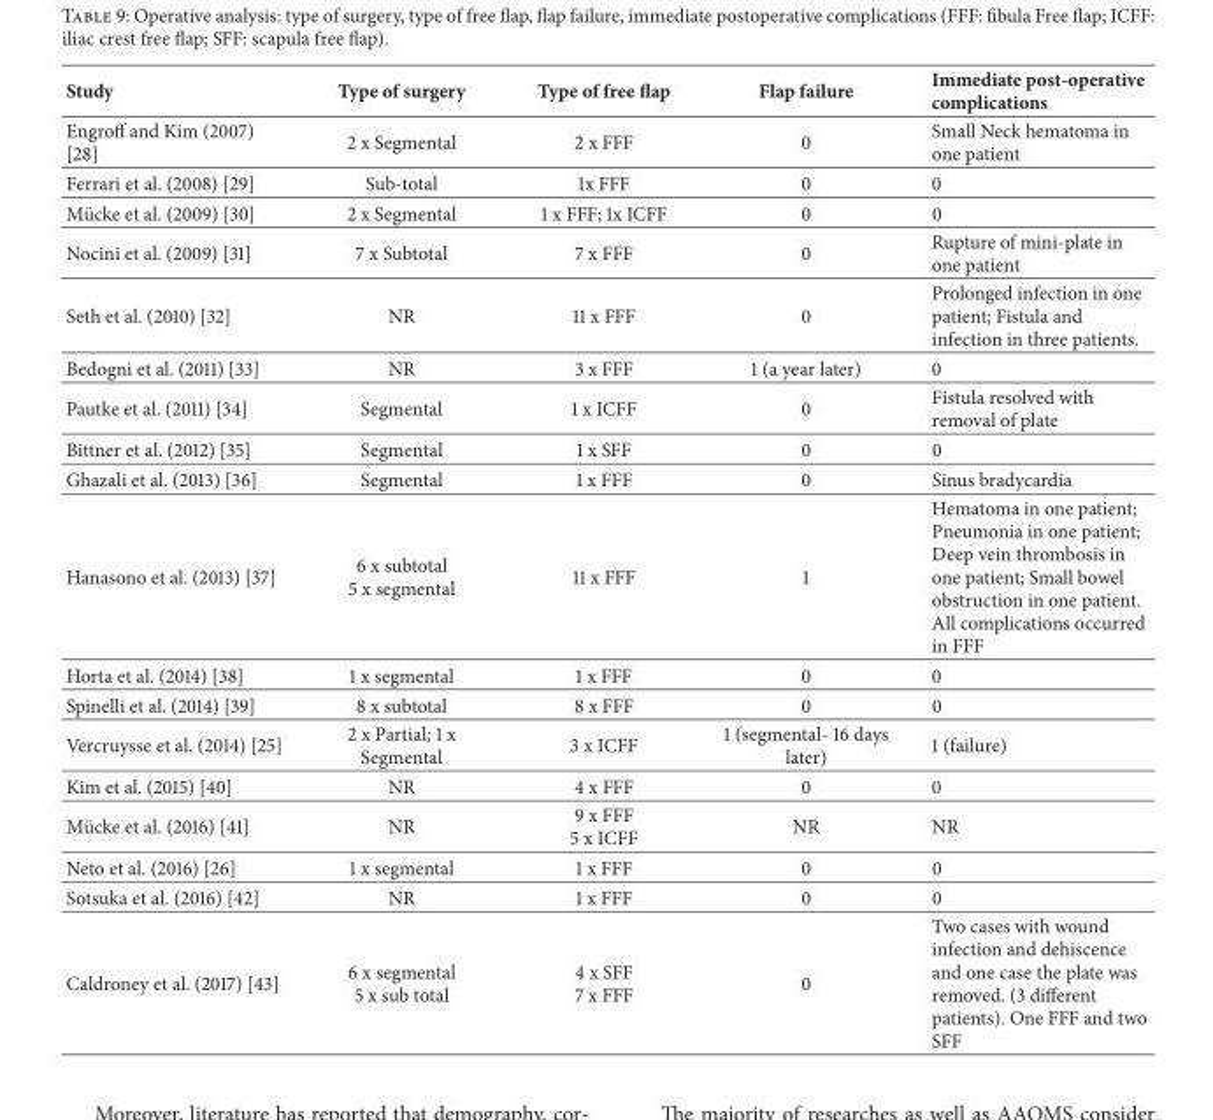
<table><thead><tr><td>Study</td><td>Type of surgery</td><td>Type of free flap</td><td>Flap failure</td><td>Immediate post-operative complications</td></tr></thead><tbody><tr><td>Engroff and Kim (2007) [28]</td><td>2 x Segmental</td><td>2 x FFF</td><td>0</td><td>Small Neck hematoma in one patient</td></tr><tr><td>Ferrari et al. (2008) [29]</td><td>Sub-total</td><td>1x FFF</td><td>0</td><td>0</td></tr><tr><td>M¨ucke et al. (2009) [30]</td><td>2 x Segmental</td><td>1 x FFF; 1x ICFF</td><td>0</td><td>0</td></tr><tr><td>Nocini et al. (2009) [31]</td><td>7 x Subtotal</td><td>7 x FFF</td><td>0</td><td>Rupture of mini-plate in one patient</td></tr><tr><td>Seth et al. (2010) [32]</td><td>NR</td><td>11 x FFF</td><td>0</td><td>Prolonged infection in one patient; Fistula and infection in three patients.</td></tr><tr><td>Bedogni et al. (2011) [33]</td><td>NR</td><td>3 x FFF</td><td>1 (a year later)</td><td>0</td></tr><tr><td>Pautke et al. (2011) [34]</td><td>Segmental</td><td>1 x ICFF</td><td>0</td><td>Fistula resolved with removal of plate</td></tr><tr><td>Bittner et al. (2012) [35]</td><td>Segmental</td><td>1 x SFF</td><td>0</td><td>0</td></tr><tr><td>Ghazali et al. (2013) [36]</td><td>Segmental</td><td>1 x FFF</td><td>0</td><td>Sinus bradycardia</td></tr><tr><td>Hanasono et al. (2013) [37]</td><td>6 x subtotal 5 x segmental</td><td>11 x FFF</td><td>1</td><td>Hematoma in one patient; Pneumonia in one patient; Deep vein thrombosis in one patient; Small bowel obstruction in one patient. All complications occurred in FFF</td></tr><tr><td>Horta et al. (2014) [38]</td><td>1 x segmental</td><td>1 x FFF</td><td>0</td><td>0</td></tr><tr><td>Spinelli et al. (2014) [39]</td><td>8 x subtotal</td><td>8 x FFF</td><td>0</td><td>0</td></tr><tr><td>Vercruysse et al. (2014) [25]</td><td>2 x Partial; 1 x Segmental</td><td>3 x ICFF</td><td>1 (segmental- 16 days later)</td><td>1 (failure)</td></tr><tr><td>Kim et al. (2015) [40]</td><td>NR</td><td>4 x FFF</td><td>0</td><td>0</td></tr><tr><td>M¨ucke et al. (2016) [41]</td><td>NR</td><td>9 x FFF 5 x ICFF</td><td>NR</td><td>NR</td></tr><tr><td>Neto et al. (2016) [26]</td><td>1 x segmental</td><td>1 x FFF</td><td>0</td><td>0</td></tr><tr><td>Sotsuka et al. (2016) [42]</td><td>NR</td><td>1 x FFF</td><td>0</td><td>0</td></tr><tr><td>Caldroney et al. (2017) [43]</td><td>6 x segmental 5 x sub total</td><td>4 x SFF 7 x FFF</td><td>0</td><td>Two cases with wound infection and dehiscence and one case the plate was removed. (3 different patients). One FFF and two SFF</td></tr></tbody></table>